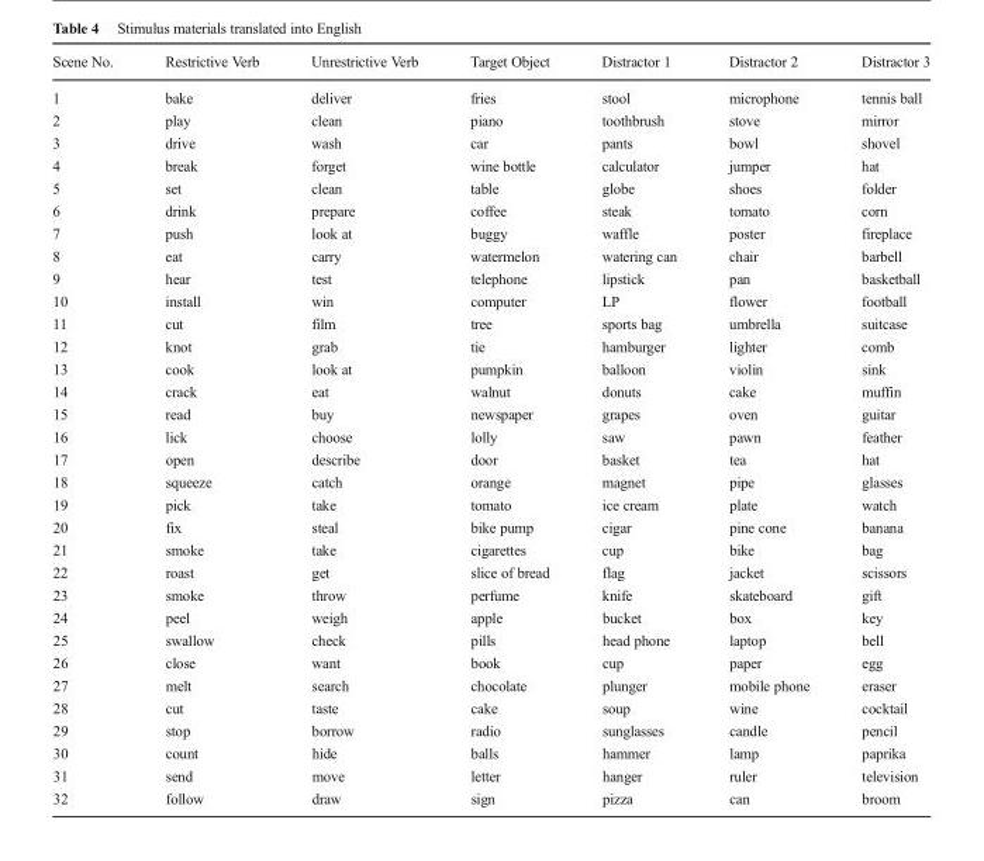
<table><thead><tr><td>Scene No.</td><td>Restrictive Verb</td><td>Unrestrictive Verb</td><td>Target Object</td><td>Distractor 1</td><td>Distractor 2</td><td>Distractor 3</td></tr></thead><tbody><tr><td>1</td><td>bake</td><td>deliver</td><td>fries</td><td>stool</td><td>microphone</td><td>tennis ball</td></tr><tr><td>2</td><td>play</td><td>clean</td><td>piano</td><td>toothbrush</td><td>stove</td><td>mirror</td></tr><tr><td>3</td><td>drive</td><td>wash</td><td>car</td><td>pants</td><td>bowl</td><td>shovel</td></tr><tr><td>4</td><td>break</td><td>forget</td><td>wine bottle</td><td>calculator</td><td>jumper</td><td>hat</td></tr><tr><td>5</td><td>set</td><td>clean</td><td>table</td><td>globe</td><td>shoes</td><td>folder</td></tr><tr><td>6</td><td>drink</td><td>prepare</td><td>coffee</td><td>steak</td><td>tomato</td><td>corn</td></tr><tr><td>7</td><td>push</td><td>look at</td><td>buggy</td><td>waffle</td><td>poster</td><td>fireplace</td></tr><tr><td>8</td><td>eat</td><td>carry</td><td>watermelon</td><td>watering can</td><td>chair</td><td>barbell</td></tr><tr><td>9</td><td>hear</td><td>test</td><td>telephone</td><td>lipstick</td><td>pan</td><td>basketball</td></tr><tr><td>10</td><td>install</td><td>win</td><td>computer</td><td>LP</td><td>flower</td><td>football</td></tr><tr><td>11</td><td>cut</td><td>film</td><td>tree</td><td>sports bag</td><td>umbrella</td><td>suitcase</td></tr><tr><td>12</td><td>knot</td><td>grab</td><td>tie</td><td>hamburger</td><td>lighter</td><td>comb</td></tr><tr><td>13</td><td>cook</td><td>look at</td><td>pumpkin</td><td>balloon</td><td>violin</td><td>sink</td></tr><tr><td>14</td><td>crack</td><td>eat</td><td>walnut</td><td>donuts</td><td>cake</td><td>muffin</td></tr><tr><td>15</td><td>read</td><td>buy</td><td>newspaper</td><td>grapes</td><td>oven</td><td>guitar</td></tr><tr><td>16</td><td>lick</td><td>choose</td><td>lolly</td><td>saw</td><td>pawn</td><td>feather</td></tr><tr><td>17</td><td>open</td><td>describe</td><td>door</td><td>basket</td><td>tea</td><td>hat</td></tr><tr><td>18</td><td>squeeze</td><td>catch</td><td>orange</td><td>magnet</td><td>pipe</td><td>glasses</td></tr><tr><td>19</td><td>pick</td><td>take</td><td>tomato</td><td>ice cream</td><td>plate</td><td>watch</td></tr><tr><td>20</td><td>fix</td><td>steal</td><td>bike pump</td><td>cigar</td><td>pine cone</td><td>banana</td></tr><tr><td>21</td><td>smoke</td><td>take</td><td>cigarettes</td><td>cup</td><td>bike</td><td>bag</td></tr><tr><td>22</td><td>roast</td><td>get</td><td>slice of bread</td><td>flag</td><td>jacket</td><td>scissors</td></tr><tr><td>23</td><td>smoke</td><td>throw</td><td>perfume</td><td>knife</td><td>skateboard</td><td>gift</td></tr><tr><td>24</td><td>peel</td><td>weigh</td><td>apple</td><td>bucket</td><td>box</td><td>key</td></tr><tr><td>25</td><td>swallow</td><td>check</td><td>pills</td><td>head phone</td><td>laptop</td><td>bell</td></tr><tr><td>26</td><td>close</td><td>want</td><td>book</td><td>cup</td><td>paper</td><td>egg</td></tr><tr><td>27</td><td>melt</td><td>search</td><td>chocolate</td><td>plunger</td><td>mobile phone</td><td>eraser</td></tr><tr><td>28</td><td>cut</td><td>taste</td><td>cake</td><td>soup</td><td>wine</td><td>cocktail</td></tr><tr><td>29</td><td>stop</td><td>borrow</td><td>radio</td><td>sunglasses</td><td>candle</td><td>pencil</td></tr><tr><td>30</td><td>count</td><td>hide</td><td>balls</td><td>hammer</td><td>lamp</td><td>paprika</td></tr><tr><td>31</td><td>send</td><td>move</td><td>letter</td><td>hanger</td><td>ruler</td><td>television</td></tr><tr><td>32</td><td>follow</td><td>draw</td><td>sign</td><td>pizza</td><td>can</td><td>broom</td></tr></tbody></table>